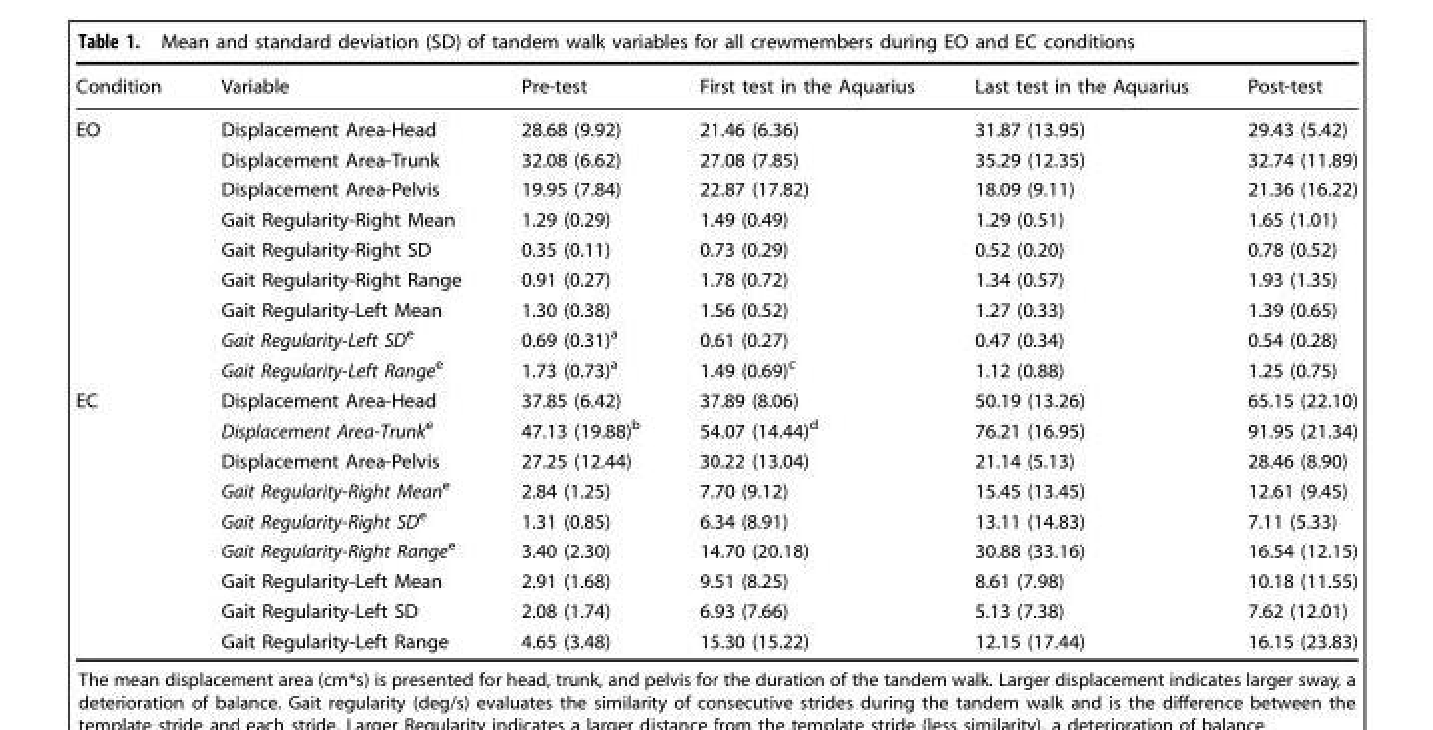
<table><thead><tr><td>Condition</td><td>Variable</td><td>Pre-test</td><td>First test in the Aquarius</td><td>Last test in the Aquarius</td><td>Post-test</td></tr></thead><tbody><tr><td rowspan="9">EO</td><td>Displacement Area-Head</td><td>28.68 (9.92)</td><td>21.46 (6.36)</td><td>31.87 (13.95)</td><td>29.43 (5.42)</td></tr><tr><td>Displacement Area-Trunk</td><td>32.08 (6.62)</td><td>27.08 (7.85)</td><td>35.29 (12.35)</td><td>32.74 (11.89)</td></tr><tr><td>Displacement Area-Pelvis</td><td>19.95 (7.84)</td><td>22.87 (17.82)</td><td>18.09 (9.11)</td><td>21.36 (16.22)</td></tr><tr><td>Gait Regularity-Right Mean</td><td>1.29 (0.29)</td><td>1.49 (0.49)</td><td>1.29 (0.51)</td><td>1.65 (1.01)</td></tr><tr><td>Gait Regularity-Right SD</td><td>0.35 (0.11)</td><td>0.73 (0.29)</td><td>0.52 (0.20)</td><td>0.78 (0.52)</td></tr><tr><td>Gait Regularity-Right Range</td><td>0.91 (0.27)</td><td>1.78 (0.72)</td><td>1.34 (0.57)</td><td>1.93 (1.35)</td></tr><tr><td>Gait Regularity-Left Mean</td><td>1.30 (0.38)</td><td>1.56 (0.52)</td><td>1.27 (0.33)</td><td>1.39 (0.65)</td></tr><tr><td>Gait Regularity-Left SD<sup>e</sup></td><td>0.69 (0.31)<sup>a</sup></td><td>0.61 (0.27)</td><td>0.47 (0.34)</td><td>0.54 (0.28)</td></tr><tr><td>Gait Regularity-Left Range<sup>e</sup></td><td>1.73 (0.73)<sup>a</sup></td><td>1.49 (0.69)<sup>c</sup></td><td>1.12 (0.88)</td><td>1.25 (0.75)</td></tr><tr><td rowspan="9">EC</td><td>Displacement Area-Head</td><td>37.85 (6.42)</td><td>37.89 (8.06)</td><td>50.19 (13.26)</td><td>65.15 (22.10)</td></tr><tr><td>Displacement Area-Trunk<sup>e</sup></td><td>47.13 (19.88)<sup>b</sup></td><td>54.07 (14.44)<sup>d</sup></td><td>76.21 (16.95)</td><td>91.95 (21.34)</td></tr><tr><td>Displacement Area-Pelvis</td><td>27.25 (12.44)</td><td>30.22 (13.04)</td><td>21.14 (5.13)</td><td>28.46 (8.90)</td></tr><tr><td>Gait Regularity-Right Mean<sup>e</sup></td><td>2.84 (1.25)</td><td>7.70 (9.12)</td><td>15.45 (13.45)</td><td>12.61 (9.45)</td></tr><tr><td>Gait Regularity-Right SD<sup>e</sup></td><td>1.31 (0.85)</td><td>6.34 (8.91)</td><td>13.11 (14.83)</td><td>7.11 (5.33)</td></tr><tr><td>Gait Regularity-Right Range<sup>e</sup></td><td>3.40 (2.30)</td><td>14.70 (20.18)</td><td>30.88 (33.16)</td><td>16.54 (12.15)</td></tr><tr><td>Gait Regularity-Left Mean</td><td>2.91 (1.68)</td><td>9.51 (8.25)</td><td>8.61 (7.98)</td><td>10.18 (11.55)</td></tr><tr><td>Gait Regularity-Left SD</td><td>2.08 (1.74)</td><td>6.93 (7.66)</td><td>5.13 (7.38)</td><td>7.62 (12.01)</td></tr><tr><td>Gait Regularity-Left Range</td><td>4.65 (3.48)</td><td>15.30 (15.22)</td><td>12.15 (17.44)</td><td>16.15 (23.83)</td></tr></tbody></table>